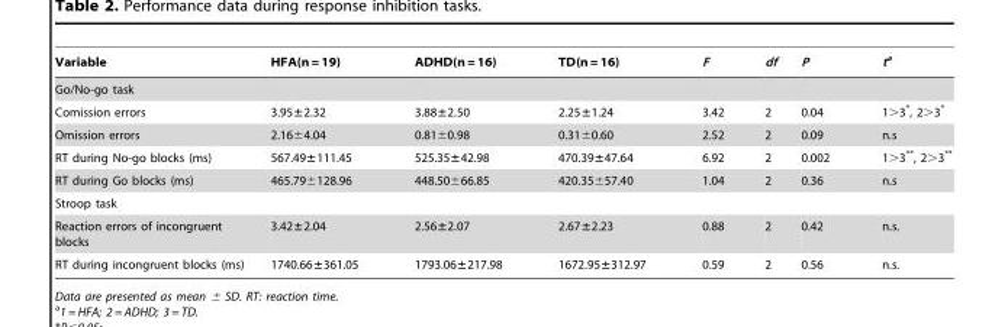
<table><thead><tr><td>Variable</td><td>HFA(n = 19)</td><td>ADHD(n = 16)</td><td>TD(n = 16)</td><td>F</td><td>df</td><td>P</td><td>ta</td></tr></thead><tbody><tr><td colspan="8">Go/No-go task</td></tr><tr><td>Comission errors</td><td>3.95±2.32</td><td>3.88±2.50</td><td>2.25±1.24</td><td>3.42</td><td>2</td><td>0.04</td><td>1&gt;3*, 2&gt;3*</td></tr><tr><td>Omission errors</td><td>2.16±4.04</td><td>0.81±0.98</td><td>0.31±0.60</td><td>2.52</td><td>2</td><td>0.09</td><td>n.s</td></tr><tr><td>RT during No-go blocks (ms)</td><td>567.49±111.45</td><td>525.35±42.98</td><td>470.39±47.64</td><td>6.92</td><td>2</td><td>0.002</td><td>1&gt;3**, 2&gt;3**</td></tr><tr><td>RT during Go blocks (ms)</td><td>465.79±128.96</td><td>448.50±66.85</td><td>420.35±57.40</td><td>1.04</td><td>2</td><td>0.36</td><td>n.s</td></tr><tr><td colspan="8">Stroop task</td></tr><tr><td>Reaction errors of incongruent blocks</td><td>3.42±2.04</td><td>2.56±2.07</td><td>2.67±2.23</td><td>0.88</td><td>2</td><td>0.42</td><td>n.s.</td></tr><tr><td>RT during incongruent blocks (ms)</td><td>1740.66±361.05</td><td>1793.06±217.98</td><td>1672.95±312.97</td><td>0.59</td><td>2</td><td>0.56</td><td>n.s.</td></tr></tbody></table>